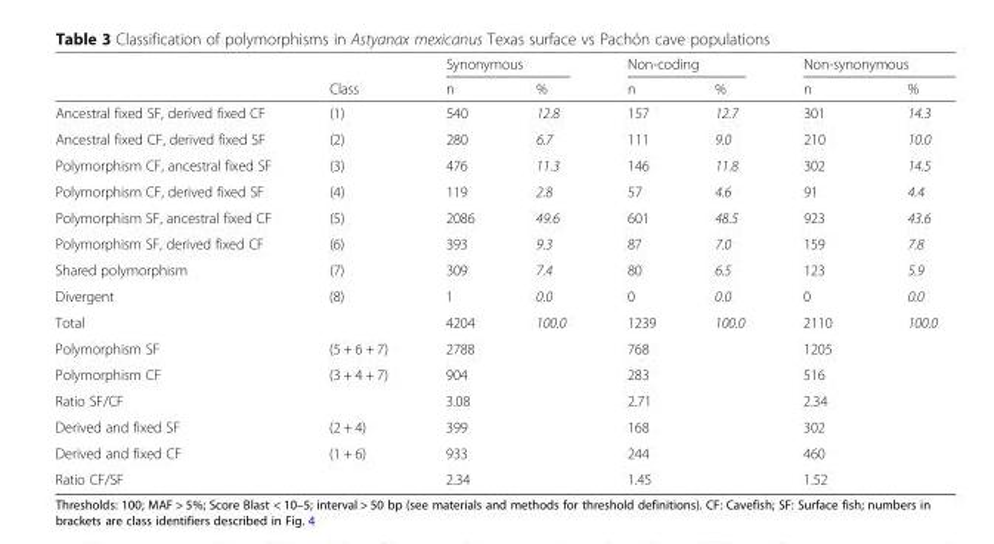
<table><thead><tr><td rowspan="2"></td><td rowspan="2">Class</td><td colspan="2">Synonymous</td><td colspan="2">Non-coding</td><td colspan="2">Non-synonymous</td></tr><tr><td>n</td><td>%</td><td>n</td><td>%</td><td>n</td><td>%</td></tr></thead><tbody><tr><td>Ancestral fixed SF, derived fixed CF</td><td>(1)</td><td>540</td><td>12.8</td><td>157</td><td>12.7</td><td>301</td><td>14.3</td></tr><tr><td>Ancestral fixed CF, derived fixed SF</td><td>(2)</td><td>280</td><td>6.7</td><td>111</td><td>9.0</td><td>210</td><td>10.0</td></tr><tr><td>Polymorphism CF, ancestral fixed SF</td><td>(3)</td><td>476</td><td>11.3</td><td>146</td><td>11.8</td><td>302</td><td>14.5</td></tr><tr><td>Polymorphism CF, derived fixed SF</td><td>(4)</td><td>119</td><td>2.8</td><td>57</td><td>4.6</td><td>91</td><td>4.4</td></tr><tr><td>Polymorphism SF, ancestral fixed CF</td><td>(5)</td><td>2086</td><td>49.6</td><td>601</td><td>48.5</td><td>923</td><td>43.6</td></tr><tr><td>Polymorphism SF, derived fixed CF</td><td>(6)</td><td>393</td><td>9.3</td><td>87</td><td>7.0</td><td>159</td><td>7.8</td></tr><tr><td>Shared polymorphism</td><td>(7)</td><td>309</td><td>7.4</td><td>80</td><td>6.5</td><td>123</td><td>5.9</td></tr><tr><td>Divergent</td><td>(8)</td><td>1</td><td>0.0</td><td>0</td><td>0.0</td><td>0</td><td>0.0</td></tr><tr><td>Total</td><td></td><td>4204</td><td>100.0</td><td>1239</td><td>100.0</td><td>2110</td><td>100.0</td></tr><tr><td>Polymorphism SF</td><td>(5 + 6 + 7)</td><td>2788</td><td></td><td>768</td><td></td><td>1205</td><td></td></tr><tr><td>Polymorphism CF</td><td>(3 + 4 + 7)</td><td>904</td><td></td><td>283</td><td></td><td>516</td><td></td></tr><tr><td>Ratio SF/CF</td><td></td><td>3.08</td><td></td><td>2.71</td><td></td><td>2.34</td><td></td></tr><tr><td>Derived and fixed SF</td><td>(2 + 4)</td><td>399</td><td></td><td>168</td><td></td><td>302</td><td></td></tr><tr><td>Derived and fixed CF</td><td>(1 + 6)</td><td>933</td><td></td><td>244</td><td></td><td>460</td><td></td></tr><tr><td>Ratio CF/SF</td><td></td><td>2.34</td><td></td><td>1.45</td><td></td><td>1.52</td><td></td></tr></tbody></table>